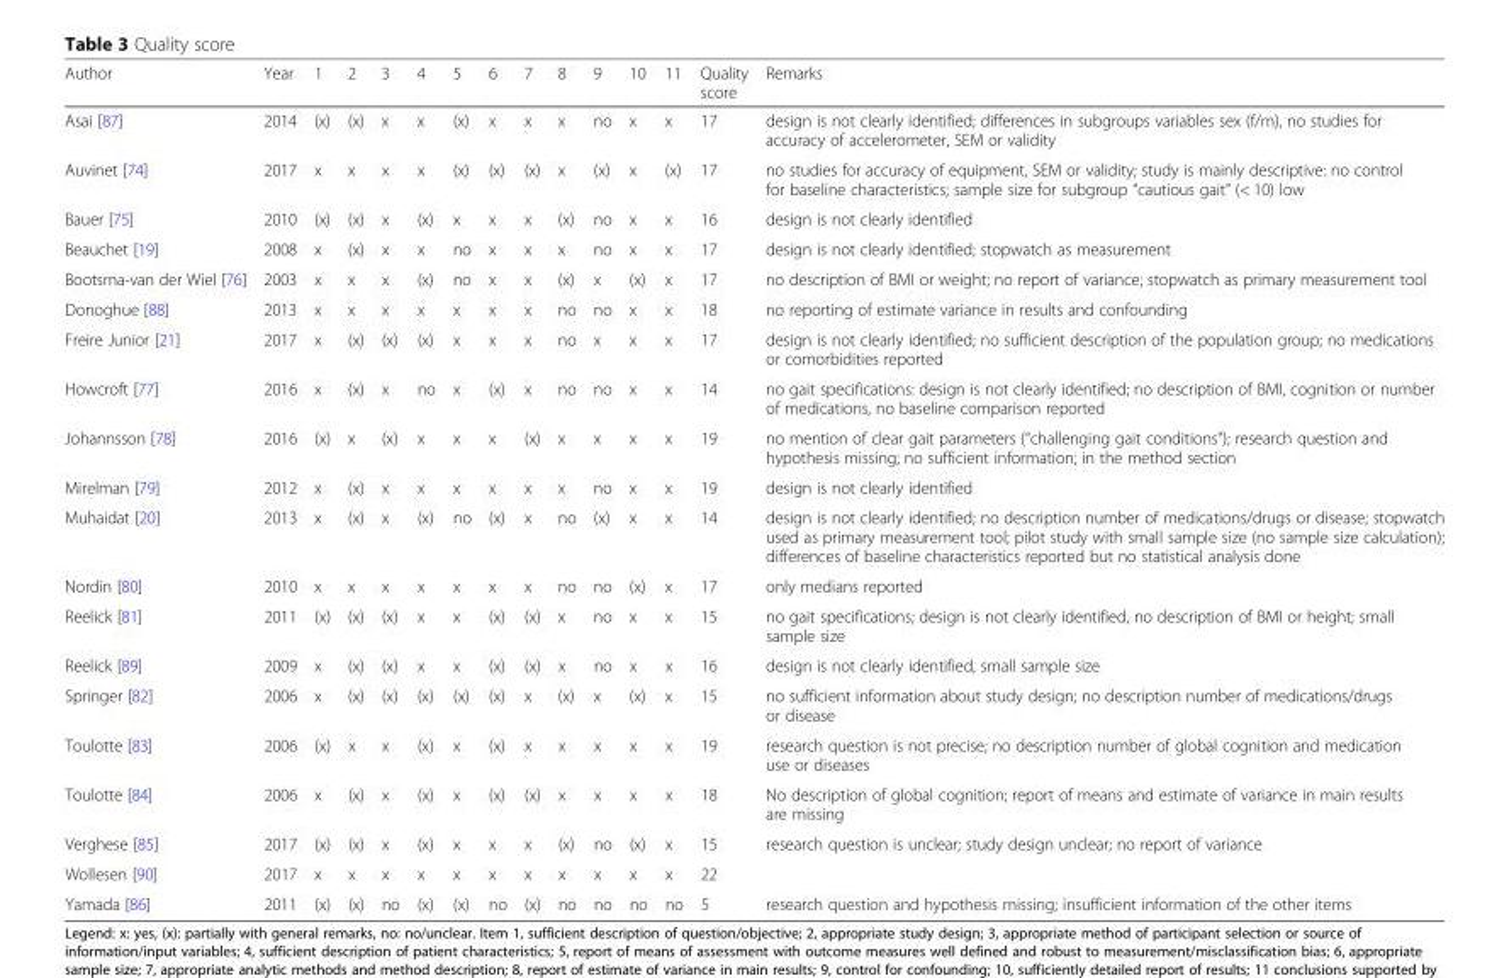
<table><thead><tr><td>Author</td><td>Year</td><td>1</td><td>2</td><td>3</td><td>4</td><td>5</td><td>6</td><td>7</td><td>8</td><td>9</td><td>10</td><td>11</td><td>Quality score</td><td>Remarks</td></tr></thead><tbody><tr><td>Asai [87]</td><td>2014</td><td>(x)</td><td>(x)</td><td>x</td><td>x</td><td>(x)</td><td>x</td><td>x</td><td>x</td><td>no</td><td>x</td><td>x</td><td>17</td><td>design is not clearly identified; differences in subgroups variables sex (f/m), no studies for accuracy of accelerometer, SEM or validity</td></tr><tr><td>Auvinet [74]</td><td>2017</td><td>x</td><td>x</td><td>x</td><td>x</td><td>(x)</td><td>(x)</td><td>(x)</td><td>x</td><td>(x)</td><td>x</td><td>(x)</td><td>17</td><td>no studies for accuracy of equipment, SEM or validity; study is mainly descriptive: no control for baseline characteristics; sample size for subgroup “cautious gait” (&lt; 10) low</td></tr><tr><td>Bauer [75]</td><td>2010</td><td>(x)</td><td>(x)</td><td>x</td><td>(x)</td><td>x</td><td>x</td><td>x</td><td>(x)</td><td>no</td><td>x</td><td>x</td><td>16</td><td>design is not clearly identified</td></tr><tr><td>Beauchet [19]</td><td>2008</td><td>x</td><td>(x)</td><td>x</td><td>x</td><td>no</td><td>x</td><td>x</td><td>x</td><td>no</td><td>x</td><td>x</td><td>17</td><td>design is not clearly identified; stopwatch as measurement</td></tr><tr><td>Bootsma-van der Wiel [76]</td><td>2003</td><td>x</td><td>x</td><td>x</td><td>(x)</td><td>no</td><td>x</td><td>x</td><td>(x)</td><td>x</td><td>(x)</td><td>x</td><td>17</td><td>no description of BMI or weight; no report of variance; stopwatch as primary measurement tool</td></tr><tr><td>Donoghue [88]</td><td>2013</td><td>x</td><td>x</td><td>x</td><td>x</td><td>x</td><td>x</td><td>x</td><td>no</td><td>no</td><td>x</td><td>x</td><td>18</td><td>no reporting of estimate variance in results and confounding</td></tr><tr><td>Freire Junior [21]</td><td>2017</td><td>x</td><td>(x)</td><td>(x)</td><td>(x)</td><td>x</td><td>x</td><td>x</td><td>no</td><td>x</td><td>x</td><td>x</td><td>17</td><td>design is not clearly identified; no sufficient description of the population group; no medications or comorbidities reported</td></tr><tr><td>Howcroft [77]</td><td>2016</td><td>x</td><td>(x)</td><td>x</td><td>no</td><td>x</td><td>(x)</td><td>x</td><td>no</td><td>no</td><td>x</td><td>x</td><td>14</td><td>no gait specifications: design is not clearly identified; no description of BMI, cognition or number of medications, no baseline comparison reported</td></tr><tr><td>Johannsson [78]</td><td>2016</td><td>(x)</td><td>x</td><td>(x)</td><td>x</td><td>x</td><td>x</td><td>(x)</td><td>x</td><td>x</td><td>x</td><td>x</td><td>19</td><td>no mention of clear gait parameters (“challenging gait conditions”); research question and hypothesis missing; no sufficient information; in the method section</td></tr><tr><td>Mirelman [79]</td><td>2012</td><td>x</td><td>(x)</td><td>x</td><td>x</td><td>x</td><td>x</td><td>x</td><td>x</td><td>no</td><td>x</td><td>x</td><td>19</td><td>design is not clearly identified</td></tr><tr><td>Muhaidat [20]</td><td>2013</td><td>x</td><td>(x)</td><td>x</td><td>(x)</td><td>no</td><td>(x)</td><td>x</td><td>no</td><td>(x)</td><td>x</td><td>x</td><td>14</td><td>design is not clearly identified; no description number of medications/drugs or disease; stopwatch used as primary measurement tool; pilot study with small sample size (no sample size calculation); differences of baseline characteristics reported but no statistical analysis done</td></tr><tr><td>Nordin [80]</td><td>2010</td><td>x</td><td>x</td><td>x</td><td>x</td><td>x</td><td>x</td><td>x</td><td>no</td><td>no</td><td>(x)</td><td>x</td><td>17</td><td>only medians reported</td></tr><tr><td>Reelick [81]</td><td>2011</td><td>(x)</td><td>(x)</td><td>(x)</td><td>x</td><td>x</td><td>(x)</td><td>(x)</td><td>x</td><td>no</td><td>x</td><td>x</td><td>15</td><td>no gait specifications; design is not clearly identified, no description of BMI or height; small sample size</td></tr><tr><td>Reelick [89]</td><td>2009</td><td>x</td><td>(x)</td><td>(x)</td><td>x</td><td>x</td><td>(x)</td><td>(x)</td><td>x</td><td>no</td><td>x</td><td>x</td><td>16</td><td>design is not clearly identified, small sample size</td></tr><tr><td>Springer [82]</td><td>2006</td><td>x</td><td>(x)</td><td>(x)</td><td>(x)</td><td>(x)</td><td>(x)</td><td>x</td><td>(x)</td><td>x</td><td>(x)</td><td>x</td><td>15</td><td>no sufficient information about study design; no description number of medications/drugs or disease</td></tr><tr><td>Toulotte [83]</td><td>2006</td><td>(x)</td><td>x</td><td>x</td><td>(x)</td><td>x</td><td>(x)</td><td>x</td><td>x</td><td>x</td><td>x</td><td>x</td><td>19</td><td>research question is not precise; no description number of global cognition and medication use or diseases</td></tr><tr><td>Toulotte [84]</td><td>2006</td><td>x</td><td>(x)</td><td>x</td><td>(x)</td><td>x</td><td>(x)</td><td>(x)</td><td>x</td><td>x</td><td>x</td><td>x</td><td>18</td><td>No description of global cognition; report of means and estimate of variance in main results are missing</td></tr><tr><td>Verghese [85]</td><td>2017</td><td>(x)</td><td>(x)</td><td>x</td><td>(x)</td><td>x</td><td>x</td><td>x</td><td>(x)</td><td>no</td><td>(x)</td><td>x</td><td>15</td><td>research question is unclear; study design unclear; no report of variance</td></tr><tr><td>Wollesen [90]</td><td>2017</td><td>x</td><td>x</td><td>x</td><td>x</td><td>x</td><td>x</td><td>x</td><td>x</td><td>x</td><td>x</td><td>x</td><td>22</td><td></td></tr><tr><td>Yamada [86]</td><td>2011</td><td>(x)</td><td>(x)</td><td>no</td><td>(x)</td><td>(x)</td><td>no</td><td>(x)</td><td>no</td><td>no</td><td>no</td><td>no</td><td>5</td><td>research question and hypothesis missing; insufficient information of the other items</td></tr></tbody></table>